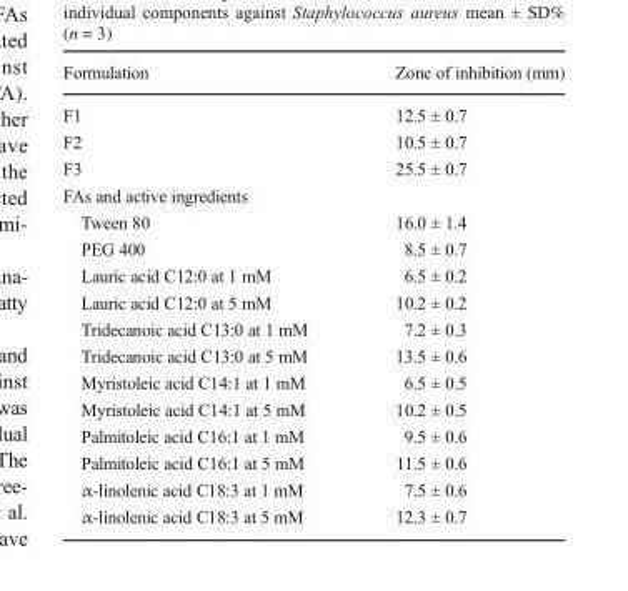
<table><thead><tr><td>Formulation</td><td>Zone of inhibition (mm)</td></tr></thead><tbody><tr><td>F1</td><td>12.5 ± 0.7</td></tr><tr><td>F2</td><td>10.5 ± 0.7</td></tr><tr><td>F3</td><td>25.5 ± 0.7</td></tr><tr><td colspan="2">FAs and active ingredients</td></tr><tr><td>Tween 80</td><td>16.0 ± 1.4</td></tr><tr><td>PEG 400</td><td>8.5 ± 0.7</td></tr><tr><td>Lauric acid C12:0 at 1 mM</td><td>6.5 ± 0.2</td></tr><tr><td>Lauric acid C12:0 at 5 mM</td><td>10.2 ± 0.2</td></tr><tr><td>Tridecanoic acid C13:0 at 1 mM</td><td>7.2 ± 0.3</td></tr><tr><td>Tridecanoic acid C13:0 at 5 mM</td><td>13.5 ± 0.6</td></tr><tr><td>Myristoleic acid C14:1 at 1 mM</td><td>6.5 ± 0.5</td></tr><tr><td>Myristoleic acid C14:1 at 5 mM</td><td>10.2 ± 0.5</td></tr><tr><td>Palmitoleic acid C16:1 at 1 mM</td><td>9.5 ± 0.6</td></tr><tr><td>Palmitoleic acid C16:1 at 5 mM</td><td>11.5 ± 0.6</td></tr><tr><td>α-linolenic acid C18:3 at 1 mM</td><td>7.5 ± 0.6</td></tr><tr><td>α-linolenic acid C18:3 at 5 mM</td><td>12.3 ± 0.7</td></tr></tbody></table>